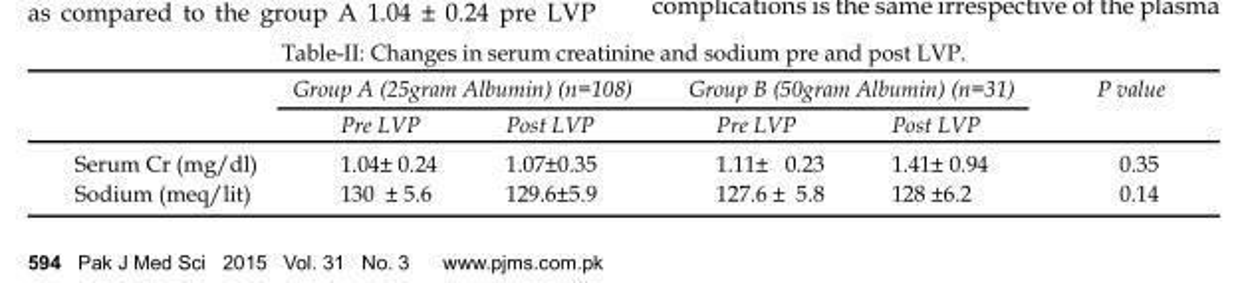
<table><thead><tr><td rowspan="2"></td><td colspan="2">Group A (25gram Albumin) (n=108)</td><td colspan="2">Group B (50gram Albumin) (n=31)</td><td rowspan="2">P value</td></tr><tr><td>Pre LVP</td><td>Post LVP</td><td>Pre LVP</td><td>Post LVP</td></tr></thead><tbody><tr><td>Serum Cr (mg/dl)</td><td>1.04± 0.24</td><td>1.07±0.35</td><td>1.11± 0.23</td><td>1.41± 0.94</td><td>0.35</td></tr><tr><td>Sodium (meq/lit)</td><td>130 ± 5.6</td><td>129.6±5.9</td><td>127.6 ± 5.8</td><td>128 ±6.2</td><td>0.14</td></tr></tbody></table>